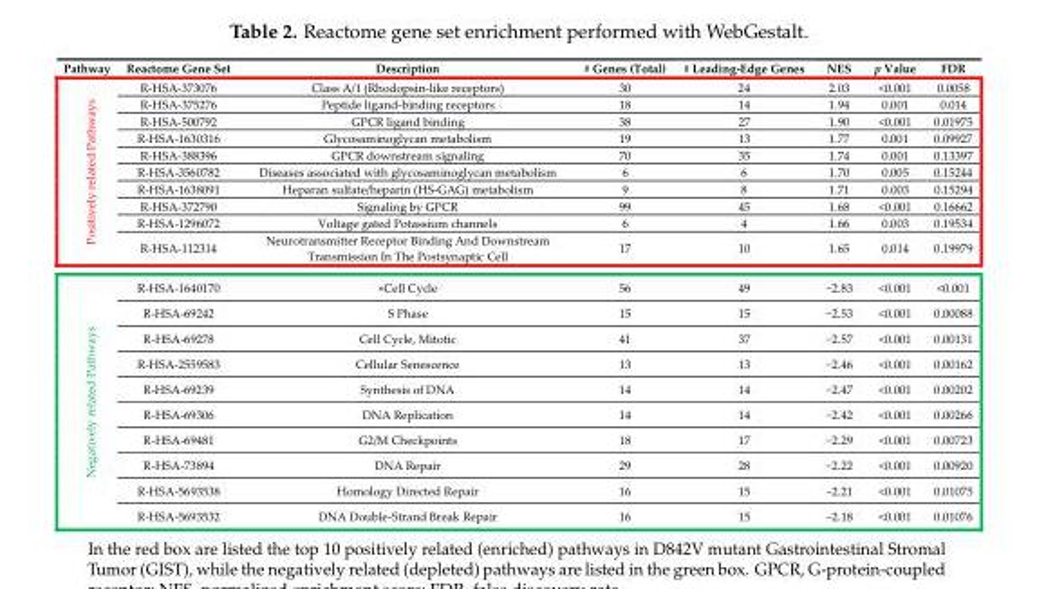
<table><thead><tr><td>Pathway</td><td>Reactome Gene Set</td><td>Description</td><td># Genes (Total)</td><td># Leading-Edge Genes</td><td>NES</td><td>p Value</td><td>FDR</td></tr></thead><tbody><tr><td rowspan="10">Positively related Pathways</td><td>R-HSA-373076</td><td>Class A/1 (Rhodopsin-like receptors)</td><td>30</td><td>24</td><td>2.03</td><td>&lt;0.001</td><td>0.0058</td></tr><tr><td>R-HSA-375276</td><td>Peptide ligand-binding receptors</td><td>18</td><td>14</td><td>1.94</td><td>0.001</td><td>0.014</td></tr><tr><td>R-HSA-500792</td><td>GPCR ligand binding</td><td>38</td><td>27</td><td>1.90</td><td>&lt;0.001</td><td>0.01975</td></tr><tr><td>R-HSA-1630316</td><td>Glycosaminoglycan metabolism</td><td>19</td><td>13</td><td>1.77</td><td>0.001</td><td>0.09927</td></tr><tr><td>R-HSA-388396</td><td>GPCR downstream signaling</td><td>70</td><td>35</td><td>1.74</td><td>0.001</td><td>0.13397</td></tr><tr><td>R-HSA-3560782</td><td>Diseases associated with glycosaminoglycan metabolism</td><td>6</td><td>6</td><td>1.70</td><td>0.005</td><td>0.15244</td></tr><tr><td>R-HSA-1638091</td><td>Heparan sulfate/heparin (HS-GAG) metabolism</td><td>9</td><td>8</td><td>1.71</td><td>0.003</td><td>0.15294</td></tr><tr><td>R-HSA-372790</td><td>Signaling by GPCR</td><td>99</td><td>45</td><td>1.68</td><td>&lt;0.001</td><td>0.16662</td></tr><tr><td>R-HSA-1296072</td><td>Voltage gated Potassium channels</td><td>6</td><td>4</td><td>1.66</td><td>0.003</td><td>0.19534</td></tr><tr><td>R-HSA-112314</td><td>Neurotransmitter Receptor Binding And Downstream Transmission In The Postsynaptic Cell</td><td>17</td><td>10</td><td>1.65</td><td>0.014</td><td>0.19979</td></tr><tr><td rowspan="10">Negatively related Pathways</td><td>R-HSA-1640170</td><td>×Cell Cycle</td><td>56</td><td>49</td><td>−2.83</td><td>&lt;0.001</td><td>&lt;0.001</td></tr><tr><td>R-HSA-69242</td><td>S Phase</td><td>15</td><td>15</td><td>−2.53</td><td>&lt;0.001</td><td>0.00088</td></tr><tr><td>R-HSA-69278</td><td>Cell Cycle, Mitotic</td><td>41</td><td>37</td><td>−2.57</td><td>&lt;0.001</td><td>0.00131</td></tr><tr><td>R-HSA-2559583</td><td>Cellular Senescence</td><td>13</td><td>13</td><td>−2.46</td><td>&lt;0.001</td><td>0.00162</td></tr><tr><td>R-HSA-69239</td><td>Synthesis of DNA</td><td>14</td><td>14</td><td>−2.47</td><td>&lt;0.001</td><td>0.00202</td></tr><tr><td>R-HSA-69306</td><td>DNA Replication</td><td>14</td><td>14</td><td>−2.42</td><td>&lt;0.001</td><td>0.00266</td></tr><tr><td>R-HSA-69481</td><td>G2/M Checkpoints</td><td>18</td><td>17</td><td>−2.29</td><td>&lt;0.001</td><td>0.00723</td></tr><tr><td>R-HSA-73894</td><td>DNA Repair</td><td>29</td><td>28</td><td>−2.22</td><td>&lt;0.001</td><td>0.00920</td></tr><tr><td>R-HSA-5693538</td><td>Homology Directed Repair</td><td>16</td><td>15</td><td>−2.21</td><td>&lt;0.001</td><td>0.01075</td></tr><tr><td>R-HSA-5693532</td><td>DNA Double-Strand Break Repair</td><td>16</td><td>15</td><td>−2.18</td><td>&lt;0.001</td><td>0.01076</td></tr></tbody></table>